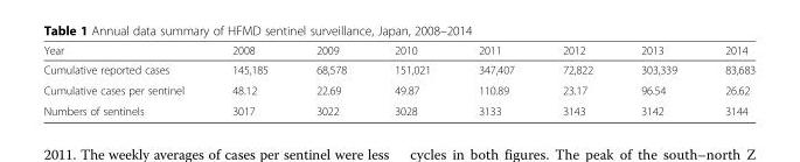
<table><thead><tr><td>Year</td><td>2008</td><td>2009</td><td>2010</td><td>2011</td><td>2012</td><td>2013</td><td>2014</td></tr></thead><tbody><tr><td>Cumulative reported cases</td><td>145,185</td><td>68,578</td><td>151,021</td><td>347,407</td><td>72,822</td><td>303,339</td><td>83,683</td></tr><tr><td>Cumulative cases per sentinel</td><td>48.12</td><td>22.69</td><td>49.87</td><td>110.89</td><td>23.17</td><td>96.54</td><td>26.62</td></tr><tr><td>Numbers of sentinels</td><td>3017</td><td>3022</td><td>3028</td><td>3133</td><td>3143</td><td>3142</td><td>3144</td></tr></tbody></table>